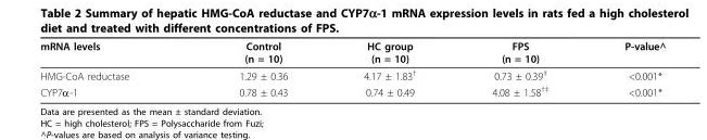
<table><thead><tr><td>mRNA levels</td><td>Control (n = 10)</td><td>HC group (n = 10)</td><td>FPS (n = 10)</td><td>P-value^</td></tr></thead><tbody><tr><td>HMG-CoA reductase</td><td>1.29 ± 0.36</td><td>4.17 ± 1.83<sup>†</sup></td><td>0.73 ± 0.39<sup>‡</sup></td><td>&lt;0.001*</td></tr><tr><td>CYP7α-1</td><td>0.78 ± 0.43</td><td>0.74 ± 0.49</td><td>4.08 ± 1.58<sup>†‡</sup></td><td>&lt;0.001*</td></tr></tbody></table>